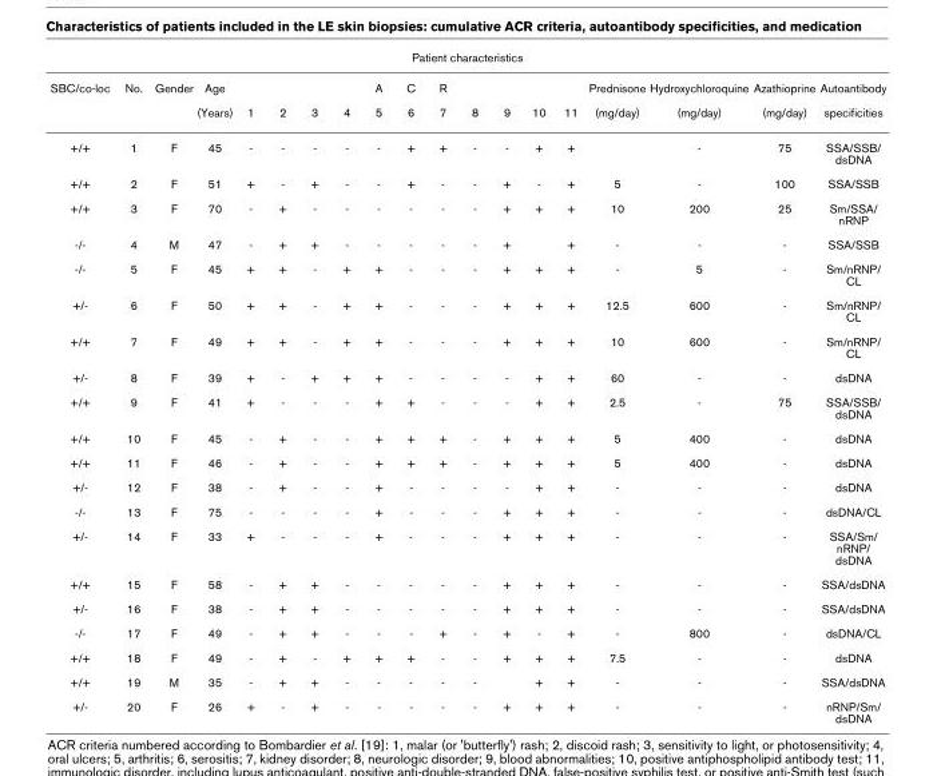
<table><thead><tr><td colspan="19">Patient characteristics</td></tr><tr><td>SBC/co-loc</td><td>No.</td><td>Gender</td><td>Age</td><td></td><td></td><td></td><td></td><td>A</td><td>C</td><td>R</td><td></td><td></td><td></td><td></td><td>Prednisone</td><td>Hydroxychloroquine</td><td>Azathioprine</td><td>Autoantibody</td></tr></thead><tbody><tr><td></td><td></td><td></td><td>(Years)</td><td>1</td><td>2</td><td>3</td><td>4</td><td>5</td><td>6</td><td>7</td><td>8</td><td>9</td><td>10</td><td>11</td><td>(mg/day)</td><td>(mg/day)</td><td>(mg/day)</td><td>specificities</td></tr><tr><td>+/+</td><td>1</td><td>F</td><td>45</td><td>-</td><td>-</td><td>-</td><td>-</td><td>-</td><td>+</td><td>+</td><td>-</td><td>-</td><td>+</td><td>+</td><td></td><td>-</td><td>75</td><td>SSA/SSB/ dsDNA</td></tr><tr><td>+/+</td><td>2</td><td>F</td><td>51</td><td>+</td><td>-</td><td>+</td><td>-</td><td>-</td><td>+</td><td>-</td><td>-</td><td>+</td><td>-</td><td>+</td><td>5</td><td>-</td><td>100</td><td>SSA/SSB</td></tr><tr><td>+/+</td><td>3</td><td>F</td><td>70</td><td>-</td><td>+</td><td>-</td><td>-</td><td>-</td><td>-</td><td>-</td><td>-</td><td>+</td><td>+</td><td>+</td><td>10</td><td>200</td><td>25</td><td>Sm/SSA/ nRNP</td></tr><tr><td>-/-</td><td>4</td><td>M</td><td>47</td><td>-</td><td>+</td><td>+</td><td>-</td><td>-</td><td>-</td><td>-</td><td>-</td><td>+</td><td></td><td>+</td><td>-</td><td>-</td><td>-</td><td>SSA/SSB</td></tr><tr><td>-/-</td><td>5</td><td>F</td><td>45</td><td>+</td><td>+</td><td>-</td><td>+</td><td>+</td><td>-</td><td>-</td><td>-</td><td>+</td><td>+</td><td>+</td><td>-</td><td>5</td><td>-</td><td>Sm/nRNP/ CL</td></tr><tr><td>+/-</td><td>6</td><td>F</td><td>50</td><td>+</td><td>+</td><td>-</td><td>+</td><td>+</td><td>-</td><td>-</td><td>-</td><td>+</td><td>+</td><td>+</td><td>12.5</td><td>600</td><td>-</td><td>Sm/nRNP/ CL</td></tr><tr><td>+/+</td><td>7</td><td>F</td><td>49</td><td>+</td><td>+</td><td>-</td><td>+</td><td>+</td><td>-</td><td>-</td><td>-</td><td>+</td><td>+</td><td>+</td><td>10</td><td>600</td><td>-</td><td>Sm/nRNP/ CL</td></tr><tr><td>+/-</td><td>8</td><td>F</td><td>39</td><td>+</td><td>-</td><td>+</td><td>+</td><td>+</td><td>-</td><td>-</td><td>-</td><td>-</td><td>+</td><td>+</td><td>60</td><td>-</td><td>-</td><td>dsDNA</td></tr><tr><td>+/+</td><td>9</td><td>F</td><td>41</td><td>+</td><td>-</td><td>-</td><td>-</td><td>+</td><td>+</td><td>-</td><td>-</td><td>-</td><td>+</td><td>+</td><td>2.5</td><td>-</td><td>75</td><td>SSA/SSB/ dsDNA</td></tr><tr><td>+/+</td><td>10</td><td>F</td><td>45</td><td>-</td><td>+</td><td>-</td><td>-</td><td>+</td><td>+</td><td>+</td><td>-</td><td>+</td><td>+</td><td>+</td><td>5</td><td>400</td><td>-</td><td>dsDNA</td></tr><tr><td>+/+</td><td>11</td><td>F</td><td>46</td><td>-</td><td>+</td><td>-</td><td>-</td><td>+</td><td>+</td><td>+</td><td>-</td><td>+</td><td>+</td><td>+</td><td>5</td><td>400</td><td>-</td><td>dsDNA</td></tr><tr><td>+/-</td><td>12</td><td>F</td><td>38</td><td>-</td><td>+</td><td>-</td><td>-</td><td>+</td><td>-</td><td>-</td><td>-</td><td>-</td><td>+</td><td>+</td><td>-</td><td>-</td><td>-</td><td>dsDNA</td></tr><tr><td>-/-</td><td>13</td><td>F</td><td>75</td><td>-</td><td>-</td><td>-</td><td>-</td><td>+</td><td>-</td><td>-</td><td>-</td><td>+</td><td>+</td><td>+</td><td>-</td><td>-</td><td>-</td><td>dsDNA/CL</td></tr><tr><td>+/-</td><td>14</td><td>F</td><td>33</td><td>+</td><td>-</td><td>-</td><td>-</td><td>+</td><td>-</td><td>-</td><td>-</td><td>+</td><td>+</td><td>+</td><td>-</td><td>-</td><td>-</td><td>SSA/Sm/ nRNP/ dsDNA</td></tr><tr><td>+/+</td><td>15</td><td>F</td><td>58</td><td>-</td><td>+</td><td>+</td><td>-</td><td>-</td><td>-</td><td>-</td><td>-</td><td>+</td><td>+</td><td>+</td><td>-</td><td>-</td><td>-</td><td>SSA/dsDNA</td></tr><tr><td>+/-</td><td>16</td><td>F</td><td>38</td><td>-</td><td>+</td><td>+</td><td>-</td><td>-</td><td>-</td><td>-</td><td>-</td><td>+</td><td>+</td><td>+</td><td>-</td><td>-</td><td>-</td><td>SSA/dsDNA</td></tr><tr><td>-/-</td><td>17</td><td>F</td><td>49</td><td>-</td><td>+</td><td>+</td><td>-</td><td>-</td><td>-</td><td>+</td><td>-</td><td>+</td><td>-</td><td>+</td><td>-</td><td>800</td><td>-</td><td>dsDNA/CL</td></tr><tr><td>+/+</td><td>18</td><td>F</td><td>49</td><td>-</td><td>+</td><td>-</td><td>+</td><td>+</td><td>+</td><td>-</td><td>-</td><td>+</td><td>+</td><td>+</td><td>7.5</td><td>-</td><td>-</td><td>dsDNA</td></tr><tr><td>+/+</td><td>19</td><td>M</td><td>35</td><td>-</td><td>+</td><td>+</td><td>-</td><td>-</td><td>-</td><td>-</td><td>-</td><td></td><td>+</td><td>+</td><td>-</td><td>-</td><td>-</td><td>SSA/dsDNA</td></tr><tr><td>+/-</td><td>20</td><td>F</td><td>26</td><td>+</td><td>-</td><td>+</td><td>-</td><td>-</td><td>-</td><td>-</td><td>-</td><td>+</td><td>+</td><td>+</td><td>-</td><td>-</td><td>-</td><td>nRNP/Sm/ dsDNA</td></tr></tbody></table>